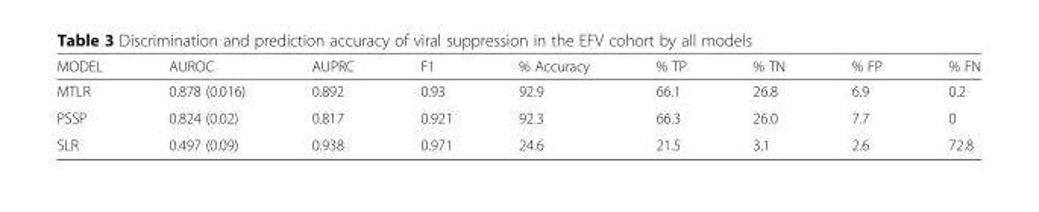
<table><thead><tr><td>MODEL</td><td>AUROC</td><td>AUPRC</td><td>F1</td><td>% Accuracy</td><td>% TP</td><td>% TN</td><td>% FP</td><td>% FN</td></tr></thead><tbody><tr><td>MTLR</td><td>0.878 (0.016)</td><td>0.892</td><td>0.93</td><td>92.9</td><td>66.1</td><td>26.8</td><td>6.9</td><td>0.2</td></tr><tr><td>PSSP</td><td>0.824 (0.02)</td><td>0.817</td><td>0.921</td><td>92.3</td><td>66.3</td><td>26.0</td><td>7.7</td><td>0</td></tr><tr><td>SLR</td><td>0.497 (0.09)</td><td>0.938</td><td>0.971</td><td>24.6</td><td>21.5</td><td>3.1</td><td>2.6</td><td>72.8</td></tr></tbody></table>